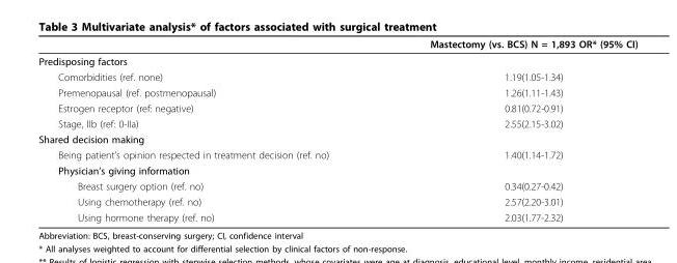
<table><thead><tr><td></td><td>Mastectomy (vs. BCS) N = 1,893 OR* (95% CI)</td></tr></thead><tbody><tr><td colspan="2">Predisposing factors</td></tr><tr><td>Comorbidities (ref. none)</td><td>1.19(1.05-1.34)</td></tr><tr><td>Premenopausal (ref. postmenopausal)</td><td>1.26(1.11-1.43)</td></tr><tr><td>Estrogen receptor (ref: negative)</td><td>0.81(0.72-0.91)</td></tr><tr><td>Stage, IIb (ref: 0-IIa)</td><td>2.55(2.15-3.02)</td></tr><tr><td colspan="2">Shared decision making</td></tr><tr><td>Being patient’s opinion respected in treatment decision (ref. no)</td><td>1.40(1.14-1.72)</td></tr><tr><td colspan="2">Physician’s giving information</td></tr><tr><td>Breast surgery option (ref. no)</td><td>0.34(0.27-0.42)</td></tr><tr><td>Using chemotherapy (ref. no)</td><td>2.57(2.20-3.01)</td></tr><tr><td>Using hormone therapy (ref. no)</td><td>2.03(1.77-2.32)</td></tr></tbody></table>